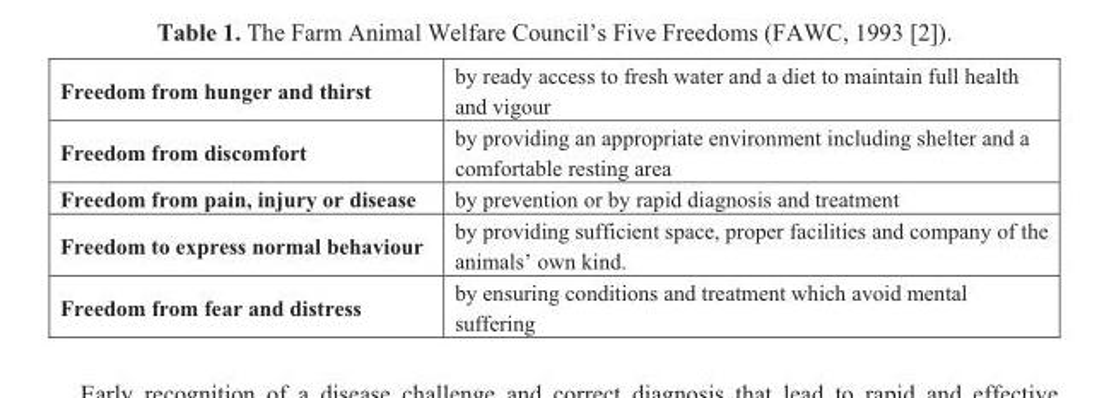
<table><tbody><tr><td>Freedom from hunger and thirst</td><td>by ready access to fresh water and a diet to maintain full health and vigour</td></tr><tr><td>Freedom from discomfort</td><td>by providing an appropriate environment including shelter and a comfortable resting area</td></tr><tr><td>Freedom from pain, injury or disease</td><td>by prevention or by rapid diagnosis and treatment</td></tr><tr><td>Freedom to express normal behaviour</td><td>by providing sufficient space, proper facilities and company of the animals’ own kind.</td></tr><tr><td>Freedom from fear and distress</td><td>by ensuring conditions and treatment which avoid mental suffering</td></tr></tbody></table>